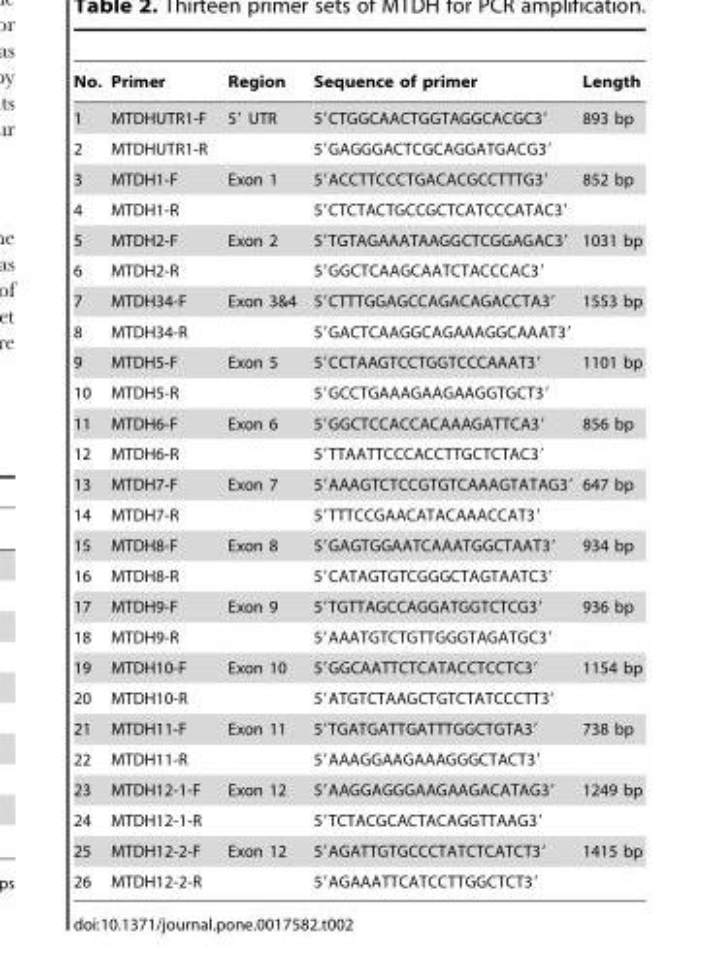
<table><thead><tr><td>No.</td><td>Primer</td><td>Region</td><td>Sequence of primer</td><td>Length</td></tr></thead><tbody><tr><td>1</td><td>MTDHUTR1-F</td><td>5′ UTR</td><td>5′CTGGCAACTGGTAGGCACGC3′</td><td>893 bp</td></tr><tr><td>2</td><td>MTDHUTR1-R</td><td></td><td>5′GAGGGACTCGCAGGATGACG3′</td><td></td></tr><tr><td>3</td><td>MTDH1-F</td><td>Exon 1</td><td>5′ACCTTCCCTGACACGCCTTTG3′</td><td>852 bp</td></tr><tr><td>4</td><td>MTDH1-R</td><td></td><td>5′CTCTACTGCCGCTCATCCCATAC3′</td><td></td></tr><tr><td>5</td><td>MTDH2-F</td><td>Exon 2</td><td>5′TGTAGAAATAAGGCTCGGAGAC3′</td><td>1031 bp</td></tr><tr><td>6</td><td>MTDH2-R</td><td></td><td>5′GGCTCAAGCAATCTACCCAC3′</td><td></td></tr><tr><td>7</td><td>MTDH34-F</td><td>Exon 3&amp;4</td><td>5′CTTTGGAGCCAGACAGACCTA3′</td><td>1553 bp</td></tr><tr><td>8</td><td>MTDH34-R</td><td></td><td>5′GACTCAAGGCAGAAAGGCAAAT3′</td><td></td></tr><tr><td>9</td><td>MTDH5-F</td><td>Exon 5</td><td>5′CCTAAGTCCTGGTCCCAAAT3′</td><td>1101 bp</td></tr><tr><td>10</td><td>MTDH5-R</td><td></td><td>5′GCCTGAAAGAAGAAGGTGCT3′</td><td></td></tr><tr><td>11</td><td>MTDH6-F</td><td>Exon 6</td><td>5′GGCTCCACCACAAAGATTCA3′</td><td>856 bp</td></tr><tr><td>12</td><td>MTDH6-R</td><td></td><td>5′TTAATTCCCACCTTGCTCTAC3′</td><td></td></tr><tr><td>13</td><td>MTDH7-F</td><td>Exon 7</td><td>5′AAAGTCTCCGTGTCAAAGTATAG3′</td><td>647 bp</td></tr><tr><td>14</td><td>MTDH7-R</td><td></td><td>5′TTTCCGAACATACAAACCAT3′</td><td></td></tr><tr><td>15</td><td>MTDH8-F</td><td>Exon 8</td><td>5′GAGTGGAATCAAATGGCTAAT3′</td><td>934 bp</td></tr><tr><td>16</td><td>MTDH8-R</td><td></td><td>5′CATAGTGTCGGGCTAGTAATC3′</td><td></td></tr><tr><td>17</td><td>MTDH9-F</td><td>Exon 9</td><td>5′TGTTAGCCAGGATGGTCTCG3′</td><td>936 bp</td></tr><tr><td>18</td><td>MTDH9-R</td><td></td><td>5′AAATGTCTGTTGGGTAGATGC3′</td><td></td></tr><tr><td>19</td><td>MTDH10-F</td><td>Exon 10</td><td>5′GGCAATTCTCATACCTCCTC3′</td><td>1154 bp</td></tr><tr><td>20</td><td>MTDH10-R</td><td></td><td>5′ATGTCTAAGCTGTCTATCCCTT3′</td><td></td></tr><tr><td>21</td><td>MTDH11-F</td><td>Exon 11</td><td>5′TGATGATTGATTTGGCTGTA3′</td><td>738 bp</td></tr><tr><td>22</td><td>MTDH11-R</td><td></td><td>5′AAAGGAAGAAAGGGCTACT3′</td><td></td></tr><tr><td>23</td><td>MTDH12-1-F</td><td>Exon 12</td><td>5′AAGGAGGGAAGAAGACATAG3′</td><td>1249 bp</td></tr><tr><td>24</td><td>MTDH12-1-R</td><td></td><td>5′TCTACGCACTACAGGTTAAG3′</td><td></td></tr><tr><td>25</td><td>MTDH12-2-F</td><td>Exon 12</td><td>5′AGATTGTGCCCTATCTCATCT3′</td><td>1415 bp</td></tr><tr><td>26</td><td>MTDH12-2-R</td><td></td><td>5′AGAAATTCATCCTTGGCTCT3′</td><td></td></tr></tbody></table>